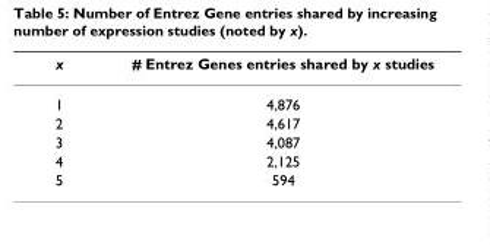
<table><thead><tr><td>x</td><td># Entrez Genes entries shared by x studies</td></tr></thead><tbody><tr><td>1</td><td>4,876</td></tr><tr><td>2</td><td>4,617</td></tr><tr><td>3</td><td>4,087</td></tr><tr><td>4</td><td>2,125</td></tr><tr><td>5</td><td>594</td></tr></tbody></table>